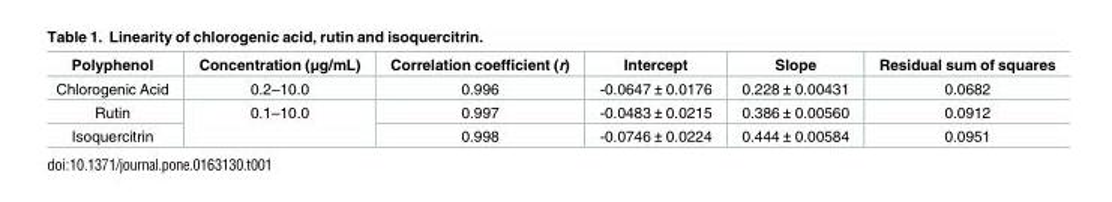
<table><thead><tr><td>Polyphenol</td><td>Concentration (μg/mL)</td><td>Correlation coefficient (r)</td><td>Intercept</td><td>Slope</td><td>Residual sum of squares</td></tr></thead><tbody><tr><td>Chlorogenic Acid</td><td>0.2–10.0</td><td>0.996</td><td>-0.0647 ± 0.0176</td><td>0.228 ± 0.00431</td><td>0.0682</td></tr><tr><td>Rutin</td><td rowspan="2">0.1–10.0</td><td>0.997</td><td>-0.0483 ± 0.0215</td><td>0.386 ± 0.00560</td><td>0.0912</td></tr><tr><td>Isoquercitrin</td><td>0.998</td><td>-0.0746 ± 0.0224</td><td>0.444 ± 0.00584</td><td>0.0951</td></tr></tbody></table>